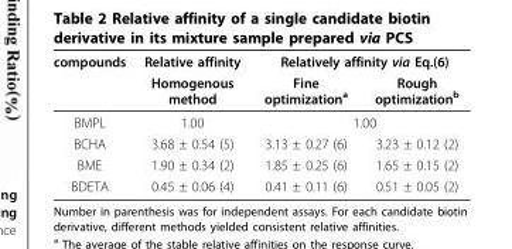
<table><thead><tr><td rowspan="2">compounds</td><td rowspan="2">Relative affinity Homogenous method</td><td colspan="2">Relatively affinity via Eq.(6)</td></tr><tr><td>Fine optimization<sup>a</sup></td><td>Rough optimization<sup>b</sup></td></tr></thead><tbody><tr><td>BMPL</td><td>1.00</td><td colspan="2">1.00</td></tr><tr><td>BCHA</td><td>3.68 ± 0.54 (5)</td><td>3.13 ± 0.27 (6)</td><td>3.23 ± 0.12 (2)</td></tr><tr><td>BME</td><td>1.90 ± 0.34 (2)</td><td>1.85 ± 0.25 (6)</td><td>1.65 ± 0.15 (2)</td></tr><tr><td>BDETA</td><td>0.45 ± 0.06 (4)</td><td>0.41 ± 0.11 (6)</td><td>0.51 ± 0.05 (2)</td></tr></tbody></table>